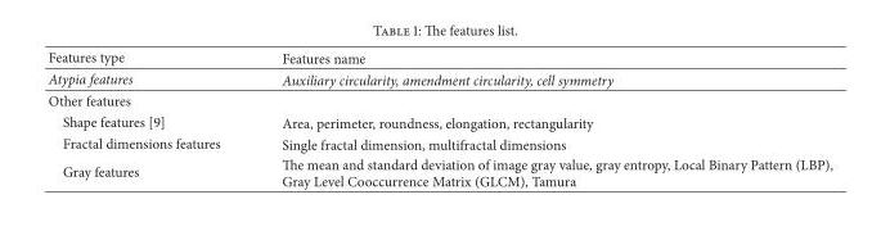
<table><thead><tr><td>Features type</td><td>Features name</td></tr></thead><tbody><tr><td>Atypia features</td><td>Auxiliary circularity, amendment circularity, cell symmetry</td></tr><tr><td colspan="2">Other features</td></tr><tr><td>Shape features [9]</td><td>Area, perimeter, roundness, elongation, rectangularity</td></tr><tr><td>Fractal dimensions features</td><td>Single fractal dimension, multifractal dimensions</td></tr><tr><td>Gray features</td><td>The mean and standard deviation of image gray value, gray entropy, Local Binary Pattern (LBP), Gray Level Cooccurrence Matrix (GLCM), Tamura</td></tr></tbody></table>